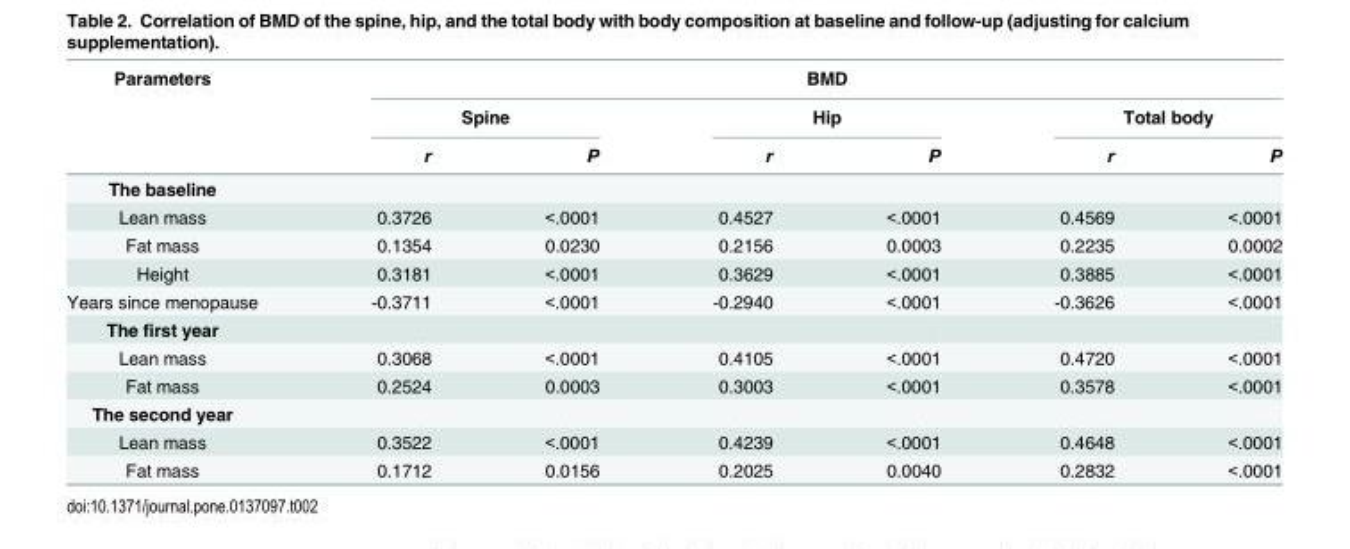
<table><thead><tr><td rowspan="3">Parameters</td><td colspan="6">BMD</td></tr><tr><td colspan="2">Spine</td><td colspan="2">Hip</td><td colspan="2">Total body</td></tr><tr><td>r</td><td>P</td><td>r</td><td>P</td><td>r</td><td>P</td></tr></thead><tbody><tr><td colspan="7">The baseline</td></tr><tr><td>Lean mass</td><td>0.3726</td><td>&lt;.0001</td><td>0.4527</td><td>&lt;.0001</td><td>0.4569</td><td>&lt;.0001</td></tr><tr><td>Fat mass</td><td>0.1354</td><td>0.0230</td><td>0.2156</td><td>0.0003</td><td>0.2235</td><td>0.0002</td></tr><tr><td>Height</td><td>0.3181</td><td>&lt;.0001</td><td>0.3629</td><td>&lt;.0001</td><td>0.3885</td><td>&lt;.0001</td></tr><tr><td>Years since menopause</td><td>-0.3711</td><td>&lt;.0001</td><td>-0.2940</td><td>&lt;.0001</td><td>-0.3626</td><td>&lt;.0001</td></tr><tr><td colspan="7">The first year</td></tr><tr><td>Lean mass</td><td>0.3068</td><td>&lt;.0001</td><td>0.4105</td><td>&lt;.0001</td><td>0.4720</td><td>&lt;.0001</td></tr><tr><td>Fat mass</td><td>0.2524</td><td>0.0003</td><td>0.3003</td><td>&lt;.0001</td><td>0.3578</td><td>&lt;.0001</td></tr><tr><td colspan="7">The second year</td></tr><tr><td>Lean mass</td><td>0.3522</td><td>&lt;.0001</td><td>0.4239</td><td>&lt;.0001</td><td>0.4648</td><td>&lt;.0001</td></tr><tr><td>Fat mass</td><td>0.1712</td><td>0.0156</td><td>0.2025</td><td>0.0040</td><td>0.2832</td><td>&lt;.0001</td></tr></tbody></table>